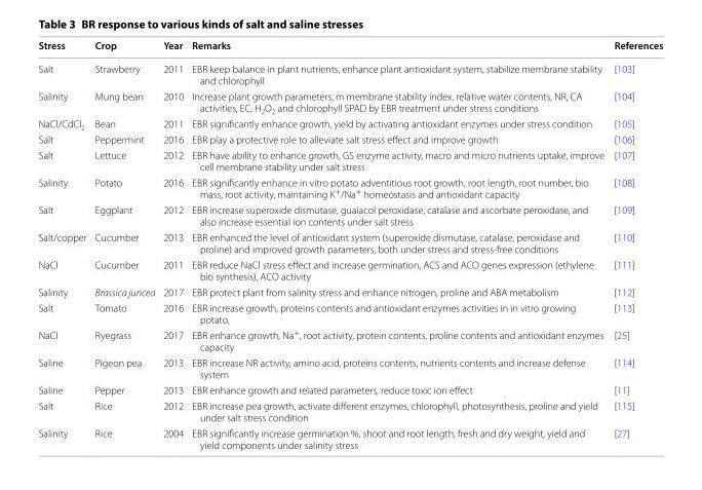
<table><thead><tr><td>Stress</td><td>Crop</td><td>Year</td><td>Remarks</td><td>References</td></tr></thead><tbody><tr><td>Salt</td><td>Strawberry</td><td>2011</td><td>EBR keep balance in plant nutrients, enhance plant antioxidant system, stabilize membrane stability and chlorophyll</td><td>[103]</td></tr><tr><td>Salinity</td><td>Mung bean</td><td>2010</td><td>Increase plant growth parameters, m membrane stability index, relative water contents, NR, CA activities, EC, H<sub>2</sub>O<sub>2</sub> and chlorophyll SPAD by EBR treatment under stress conditions</td><td>[104]</td></tr><tr><td>NaCl/CdCl<sub>2</sub></td><td>Bean</td><td>2011</td><td>EBR significantly enhance growth, yield by activating antioxidant enzymes under stress condition</td><td>[105]</td></tr><tr><td>Salt</td><td>Peppermint</td><td>2016</td><td>EBR play a protective role to alleviate salt stress effect and improve growth</td><td>[106]</td></tr><tr><td>Salt</td><td>Lettuce</td><td>2012</td><td>EBR have ability to enhance growth, GS enzyme activity, macro and micro nutrients uptake, improve cell membrane stability under salt stress</td><td>[107]</td></tr><tr><td>Salinity</td><td>Potato</td><td>2016</td><td>EBR significantly enhance in vitro potato adventitious root growth, root length, root number, bio mass, root activity, maintaining K<sup>+</sup>/Na<sup>+</sup> homeostasis and antioxidant capacity</td><td>[108]</td></tr><tr><td>Salt</td><td>Eggplant</td><td>2012</td><td>EBR increase superoxide dismutase, guaiacol peroxidase, catalase and ascorbate peroxidase, and also increase essential ion contents under salt stress</td><td>[109]</td></tr><tr><td>Salt/copper</td><td>Cucumber</td><td>2013</td><td>EBR enhanced the level of antioxidant system (superoxide dismutase, catalase, peroxidase and proline) and improved growth parameters, both under stress and stress-free conditions</td><td>[110]</td></tr><tr><td>NaCl</td><td>Cucumber</td><td>2011</td><td>EBR reduce NaCl stress effect and increase germination, ACS and ACO genes expression (ethylene bio synthesis), ACO activity</td><td>[111]</td></tr><tr><td>Salinity</td><td>Brassica juncea</td><td>2017</td><td>EBR protect plant from salinity stress and enhance nitrogen, proline and ABA metabolism</td><td>[112]</td></tr><tr><td>Salt</td><td>Tomato</td><td>2016</td><td>EBR increase growth, proteins contents and antioxidant enzymes activities in in vitro growing potato.</td><td>[113]</td></tr><tr><td>NaCl</td><td>Ryegrass</td><td>2017</td><td>EBR enhance growth, Na<sup>+</sup>, root activity, protein contents, proline contents and antioxidant enzymes capacity</td><td>[25]</td></tr><tr><td>Saline</td><td>Pigeon pea</td><td>2013</td><td>EBR increase NR activity, amino acid, proteins contents, nutrients contents and increase defense system</td><td>[114]</td></tr><tr><td>Saline</td><td>Pepper</td><td>2013</td><td>EBR enhance growth and related parameters, reduce toxic ion effect</td><td>[11]</td></tr><tr><td>Salt</td><td>Rice</td><td>2012</td><td>EBR increase pea growth, activate different enzymes, chlorophyll, photosynthesis, proline and yield under salt stress condition</td><td>[115]</td></tr><tr><td>Salinity</td><td>Rice</td><td>2004</td><td>EBR significantly increase germination %, shoot and root length, fresh and dry weight, yield and yield components under salinity stress</td><td>[27]</td></tr></tbody></table>